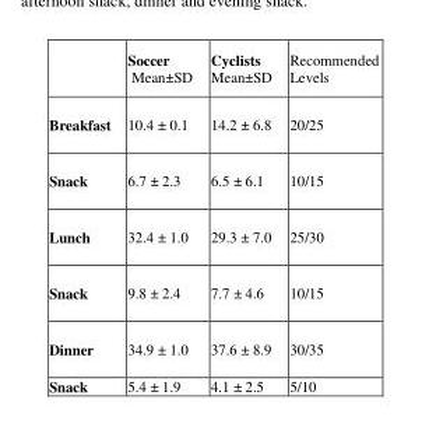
<table><thead><tr><td></td><td>Soccer Mean±SD</td><td>Cyclists Mean±SD</td><td>Recommended Levels</td></tr></thead><tbody><tr><td>Breakfast</td><td>10.4 ± 0.1</td><td>14.2 ± 6.8</td><td>20/25</td></tr><tr><td>Snack</td><td>6.7 ± 2.3</td><td>6.5 ± 6.1</td><td>10/15</td></tr><tr><td>Lunch</td><td>32.4 ± 1.0</td><td>29.3 ± 7.0</td><td>25/30</td></tr><tr><td>Snack</td><td>9.8 ± 2.4</td><td>7.7 ± 4.6</td><td>10/15</td></tr><tr><td>Dinner</td><td>34.9 ± 1.0</td><td>37.6 ± 8.9</td><td>30/35</td></tr><tr><td>Snack</td><td>5.4 ± 1.9</td><td>4.1 ± 2.5</td><td>5/10</td></tr></tbody></table>